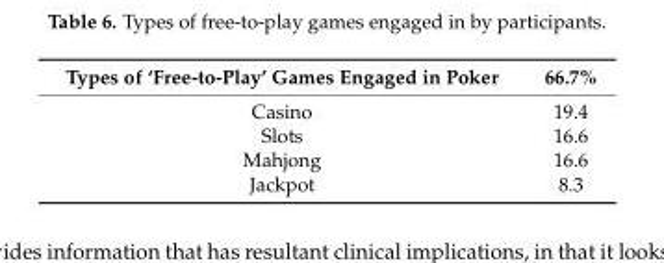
<table><thead><tr><td>Types of ‘Free-to-Play’ Games Engaged in Poker</td><td>66.7%</td></tr></thead><tbody><tr><td>Casino</td><td>19.4</td></tr><tr><td>Slots</td><td>16.6</td></tr><tr><td>Mahjong</td><td>16.6</td></tr><tr><td>Jackpot</td><td>8.3</td></tr></tbody></table>